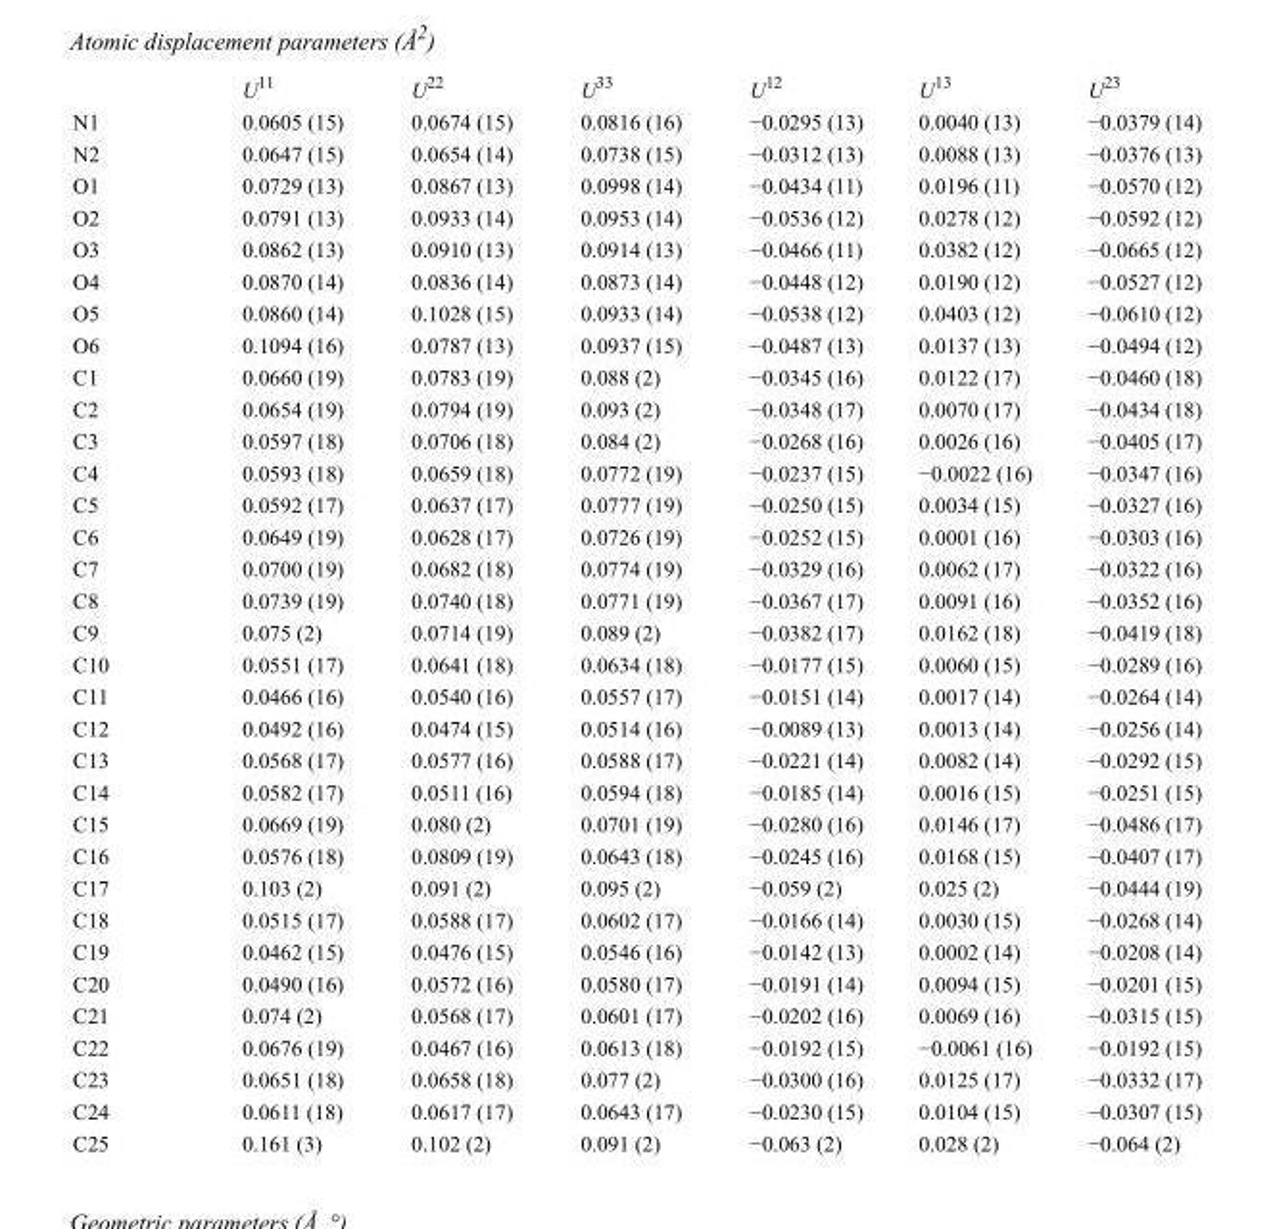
<table><thead><tr><td></td><td>U<sup>11</sup></td><td>U<sup>22</sup></td><td>U<sup>33</sup></td><td>U<sup>12</sup></td><td>U<sup>13</sup></td><td>U<sup>23</sup></td></tr></thead><tbody><tr><td>N1</td><td>0.0605 (15)</td><td>0.0674 (15)</td><td>0.0816 (16)</td><td>−0.0295 (13)</td><td>0.0040 (13)</td><td>−0.0379 (14)</td></tr><tr><td>N2</td><td>0.0647 (15)</td><td>0.0654 (14)</td><td>0.0738 (15)</td><td>−0.0312 (13)</td><td>0.0088 (13)</td><td>−0.0376 (13)</td></tr><tr><td>O1</td><td>0.0729 (13)</td><td>0.0867 (13)</td><td>0.0998 (14)</td><td>−0.0434 (11)</td><td>0.0196 (11)</td><td>−0.0570 (12)</td></tr><tr><td>O2</td><td>0.0791 (13)</td><td>0.0933 (14)</td><td>0.0953 (14)</td><td>−0.0536 (12)</td><td>0.0278 (12)</td><td>−0.0592 (12)</td></tr><tr><td>O3</td><td>0.0862 (13)</td><td>0.0910 (13)</td><td>0.0914 (13)</td><td>−0.0466 (11)</td><td>0.0382 (12)</td><td>−0.0665 (12)</td></tr><tr><td>O4</td><td>0.0870 (14)</td><td>0.0836 (14)</td><td>0.0873 (14)</td><td>−0.0448 (12)</td><td>0.0190 (12)</td><td>−0.0527 (12)</td></tr><tr><td>O5</td><td>0.0860 (14)</td><td>0.1028 (15)</td><td>0.0933 (14)</td><td>−0.0538 (12)</td><td>0.0403 (12)</td><td>−0.0610 (12)</td></tr><tr><td>O6</td><td>0.1094 (16)</td><td>0.0787 (13)</td><td>0.0937 (15)</td><td>−0.0487 (13)</td><td>0.0137 (13)</td><td>−0.0494 (12)</td></tr><tr><td>C1</td><td>0.0660 (19)</td><td>0.0783 (19)</td><td>0.088 (2)</td><td>−0.0345 (16)</td><td>0.0122 (17)</td><td>−0.0460 (18)</td></tr><tr><td>C2</td><td>0.0654 (19)</td><td>0.0794 (19)</td><td>0.093 (2)</td><td>−0.0348 (17)</td><td>0.0070 (17)</td><td>−0.0434 (18)</td></tr><tr><td>C3</td><td>0.0597 (18)</td><td>0.0706 (18)</td><td>0.084 (2)</td><td>−0.0268 (16)</td><td>0.0026 (16)</td><td>−0.0405 (17)</td></tr><tr><td>C4</td><td>0.0593 (18)</td><td>0.0659 (18)</td><td>0.0772 (19)</td><td>−0.0237 (15)</td><td>−0.0022 (16)</td><td>−0.0347 (16)</td></tr><tr><td>C5</td><td>0.0592 (17)</td><td>0.0637 (17)</td><td>0.0777 (19)</td><td>−0.0250 (15)</td><td>0.0034 (15)</td><td>−0.0327 (16)</td></tr><tr><td>C6</td><td>0.0649 (19)</td><td>0.0628 (17)</td><td>0.0726 (19)</td><td>−0.0252 (15)</td><td>0.0001 (16)</td><td>−0.0303 (16)</td></tr><tr><td>C7</td><td>0.0700 (19)</td><td>0.0682 (18)</td><td>0.0774 (19)</td><td>−0.0329 (16)</td><td>0.0062 (17)</td><td>−0.0322 (16)</td></tr><tr><td>C8</td><td>0.0739 (19)</td><td>0.0740 (18)</td><td>0.0771 (19)</td><td>−0.0367 (17)</td><td>0.0091 (16)</td><td>−0.0352 (16)</td></tr><tr><td>C9</td><td>0.075 (2)</td><td>0.0714 (19)</td><td>0.089 (2)</td><td>−0.0382 (17)</td><td>0.0162 (18)</td><td>−0.0419 (18)</td></tr><tr><td>C10</td><td>0.0551 (17)</td><td>0.0641 (18)</td><td>0.0634 (18)</td><td>−0.0177 (15)</td><td>0.0060 (15)</td><td>−0.0289 (16)</td></tr><tr><td>C11</td><td>0.0466 (16)</td><td>0.0540 (16)</td><td>0.0557 (17)</td><td>−0.0151 (14)</td><td>0.0017 (14)</td><td>−0.0264 (14)</td></tr><tr><td>C12</td><td>0.0492 (16)</td><td>0.0474 (15)</td><td>0.0514 (16)</td><td>−0.0089 (13)</td><td>0.0013 (14)</td><td>−0.0256 (14)</td></tr><tr><td>C13</td><td>0.0568 (17)</td><td>0.0577 (16)</td><td>0.0588 (17)</td><td>−0.0221 (14)</td><td>0.0082 (14)</td><td>−0.0292 (15)</td></tr><tr><td>C14</td><td>0.0582 (17)</td><td>0.0511 (16)</td><td>0.0594 (18)</td><td>−0.0185 (14)</td><td>0.0016 (15)</td><td>−0.0251 (15)</td></tr><tr><td>C15</td><td>0.0669 (19)</td><td>0.080 (2)</td><td>0.0701 (19)</td><td>−0.0280 (16)</td><td>0.0146 (17)</td><td>−0.0486 (17)</td></tr><tr><td>C16</td><td>0.0576 (18)</td><td>0.0809 (19)</td><td>0.0643 (18)</td><td>−0.0245 (16)</td><td>0.0168 (15)</td><td>−0.0407 (17)</td></tr><tr><td>C17</td><td>0.103 (2)</td><td>0.091 (2)</td><td>0.095 (2)</td><td>−0.059 (2)</td><td>0.025 (2)</td><td>−0.0444 (19)</td></tr><tr><td>C18</td><td>0.0515 (17)</td><td>0.0588 (17)</td><td>0.0602 (17)</td><td>−0.0166 (14)</td><td>0.0030 (15)</td><td>−0.0268 (14)</td></tr><tr><td>C19</td><td>0.0462 (15)</td><td>0.0476 (15)</td><td>0.0546 (16)</td><td>−0.0142 (13)</td><td>0.0002 (14)</td><td>−0.0208 (14)</td></tr><tr><td>C20</td><td>0.0490 (16)</td><td>0.0572 (16)</td><td>0.0580 (17)</td><td>−0.0191 (14)</td><td>0.0094 (15)</td><td>−0.0201 (15)</td></tr><tr><td>C21</td><td>0.074 (2)</td><td>0.0568 (17)</td><td>0.0601 (17)</td><td>−0.0202 (16)</td><td>0.0069 (16)</td><td>−0.0315 (15)</td></tr><tr><td>C22</td><td>0.0676 (19)</td><td>0.0467 (16)</td><td>0.0613 (18)</td><td>−0.0192 (15)</td><td>−0.0061 (16)</td><td>−0.0192 (15)</td></tr><tr><td>C23</td><td>0.0651 (18)</td><td>0.0658 (18)</td><td>0.077 (2)</td><td>−0.0300 (16)</td><td>0.0125 (17)</td><td>−0.0332 (17)</td></tr><tr><td>C24</td><td>0.0611 (18)</td><td>0.0617 (17)</td><td>0.0643 (17)</td><td>−0.0230 (15)</td><td>0.0104 (15)</td><td>−0.0307 (15)</td></tr><tr><td>C25</td><td>0.161 (3)</td><td>0.102 (2)</td><td>0.091 (2)</td><td>−0.063 (2)</td><td>0.028 (2)</td><td>−0.064 (2)</td></tr></tbody></table>